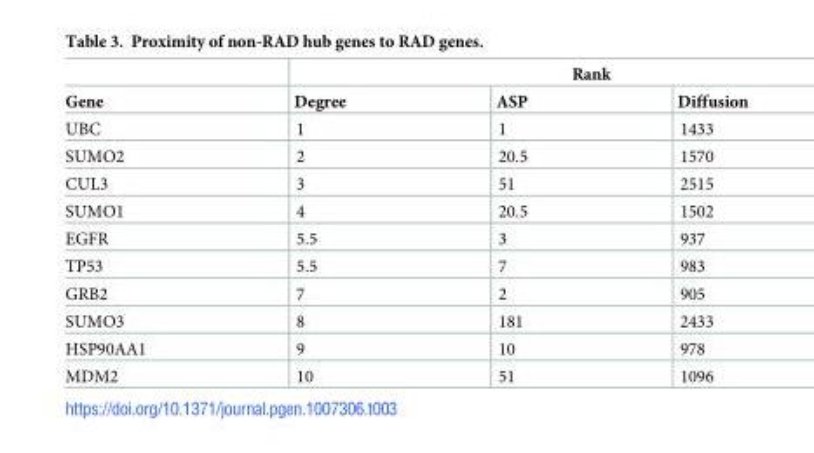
<table><thead><tr><td rowspan="2">Gene</td><td colspan="3">Rank</td></tr><tr><td>Degree</td><td>ASP</td><td>Diffusion</td></tr></thead><tbody><tr><td>UBC</td><td>1</td><td>1</td><td>1433</td></tr><tr><td>SUMO2</td><td>2</td><td>20.5</td><td>1570</td></tr><tr><td>CUL3</td><td>3</td><td>51</td><td>2515</td></tr><tr><td>SUMO1</td><td>4</td><td>20.5</td><td>1502</td></tr><tr><td>EGFR</td><td>5.5</td><td>3</td><td>937</td></tr><tr><td>TP53</td><td>5.5</td><td>7</td><td>983</td></tr><tr><td>GRB2</td><td>7</td><td>2</td><td>905</td></tr><tr><td>SUMO3</td><td>8</td><td>181</td><td>2433</td></tr><tr><td>HSP90AA1</td><td>9</td><td>10</td><td>978</td></tr><tr><td>MDM2</td><td>10</td><td>51</td><td>1096</td></tr></tbody></table>